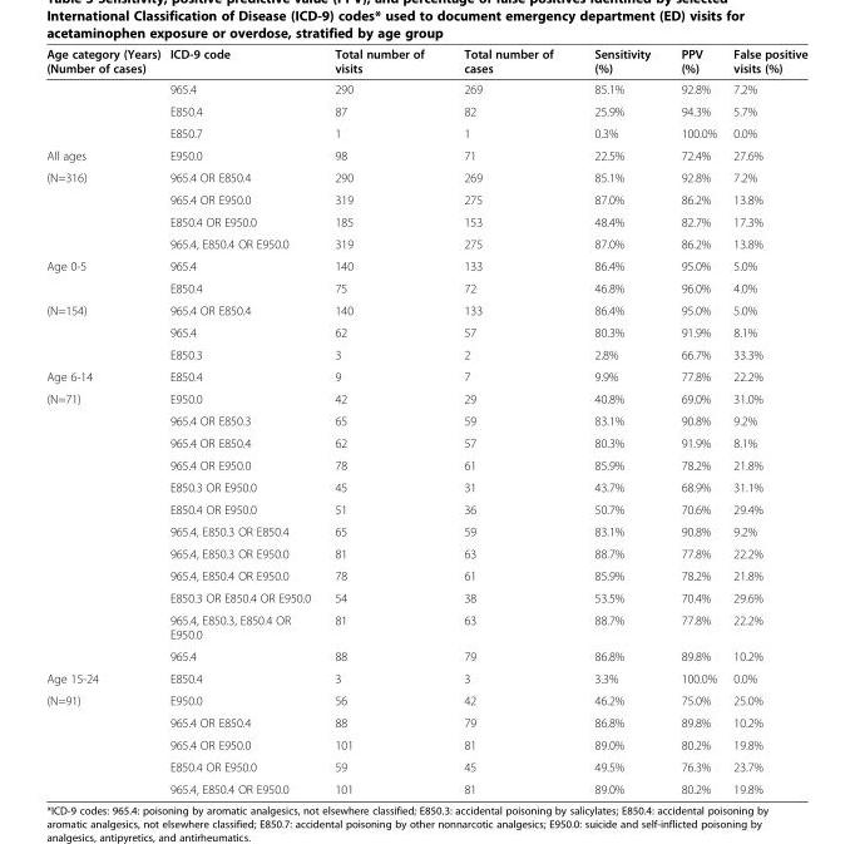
<table><thead><tr><td>Age category (Years) (Number of cases)</td><td>ICD-9 code</td><td>Total number of visits</td><td>Total number of cases</td><td>Sensitivity (%)</td><td>PPV (%)</td><td>False positive visits (%)</td></tr></thead><tbody><tr><td></td><td>965.4</td><td>290</td><td>269</td><td>85.1%</td><td>92.8%</td><td>7.2%</td></tr><tr><td></td><td>E850.4</td><td>87</td><td>82</td><td>25.9%</td><td>94.3%</td><td>5.7%</td></tr><tr><td></td><td>E850.7</td><td>1</td><td>1</td><td>0.3%</td><td>100.0%</td><td>0.0%</td></tr><tr><td>All ages</td><td>E950.0</td><td>98</td><td>71</td><td>22.5%</td><td>72.4%</td><td>27.6%</td></tr><tr><td rowspan="4">(N=316)</td><td>965.4 OR E850.4</td><td>290</td><td>269</td><td>85.1%</td><td>92.8%</td><td>7.2%</td></tr><tr><td>965.4 OR E950.0</td><td>319</td><td>275</td><td>87.0%</td><td>86.2%</td><td>13.8%</td></tr><tr><td>E850.4 OR E950.0</td><td>185</td><td>153</td><td>48.4%</td><td>82.7%</td><td>17.3%</td></tr><tr><td>965.4, E850.4 OR E950.0</td><td>319</td><td>275</td><td>87.0%</td><td>86.2%</td><td>13.8%</td></tr><tr><td rowspan="2">Age 0-5</td><td>965.4</td><td>140</td><td>133</td><td>86.4%</td><td>95.0%</td><td>5.0%</td></tr><tr><td>E850.4</td><td>75</td><td>72</td><td>46.8%</td><td>96.0%</td><td>4.0%</td></tr><tr><td rowspan="3">(N=154)</td><td>965.4 OR E850.4</td><td>140</td><td>133</td><td>86.4%</td><td>95.0%</td><td>5.0%</td></tr><tr><td>965.4</td><td>62</td><td>57</td><td>80.3%</td><td>91.9%</td><td>8.1%</td></tr><tr><td>E850.3</td><td>3</td><td>2</td><td>2.8%</td><td>66.7%</td><td>33.3%</td></tr><tr><td>Age 6-14</td><td>E850.4</td><td>9</td><td>7</td><td>9.9%</td><td>77.8%</td><td>22.2%</td></tr><tr><td rowspan="12">(N=71)</td><td>E950.0</td><td>42</td><td>29</td><td>40.8%</td><td>69.0%</td><td>31.0%</td></tr><tr><td>965.4 OR E850.3</td><td>65</td><td>59</td><td>83.1%</td><td>90.8%</td><td>9.2%</td></tr><tr><td>965.4 OR E850.4</td><td>62</td><td>57</td><td>80.3%</td><td>91.9%</td><td>8.1%</td></tr><tr><td>965.4 OR E950.0</td><td>78</td><td>61</td><td>85.9%</td><td>78.2%</td><td>21.8%</td></tr><tr><td>E850.3 OR E950.0</td><td>45</td><td>31</td><td>43.7%</td><td>68.9%</td><td>31.1%</td></tr><tr><td>E850.4 OR E950.0</td><td>51</td><td>36</td><td>50.7%</td><td>70.6%</td><td>29.4%</td></tr><tr><td>965.4, E850.3 OR E850.4</td><td>65</td><td>59</td><td>83.1%</td><td>90.8%</td><td>9.2%</td></tr><tr><td>965.4, E850.3 OR E950.0</td><td>81</td><td>63</td><td>88.7%</td><td>77.8%</td><td>22.2%</td></tr><tr><td>965.4, E850.4 OR E950.0</td><td>78</td><td>61</td><td>85.9%</td><td>78.2%</td><td>21.8%</td></tr><tr><td>E850.3 OR E850.4 OR E950.0</td><td>54</td><td>38</td><td>53.5%</td><td>70.4%</td><td>29.6%</td></tr><tr><td>965.4, E850.3, E850.4 OR E950.0</td><td>81</td><td>63</td><td>88.7%</td><td>77.8%</td><td>22.2%</td></tr><tr><td>965.4</td><td>88</td><td>79</td><td>86.8%</td><td>89.8%</td><td>10.2%</td></tr><tr><td>Age 15-24</td><td>E850.4</td><td>3</td><td>3</td><td>3.3%</td><td>100.0%</td><td>0.0%</td></tr><tr><td rowspan="5">(N=91)</td><td>E950.0</td><td>56</td><td>42</td><td>46.2%</td><td>75.0%</td><td>25.0%</td></tr><tr><td>965.4 OR E850.4</td><td>88</td><td>79</td><td>86.8%</td><td>89.8%</td><td>10.2%</td></tr><tr><td>965.4 OR E950.0</td><td>101</td><td>81</td><td>89.0%</td><td>80.2%</td><td>19.8%</td></tr><tr><td>E850.4 OR E950.0</td><td>59</td><td>45</td><td>49.5%</td><td>76.3%</td><td>23.7%</td></tr><tr><td>965.4, E850.4 OR E950.0</td><td>101</td><td>81</td><td>89.0%</td><td>80.2%</td><td>19.8%</td></tr></tbody></table>